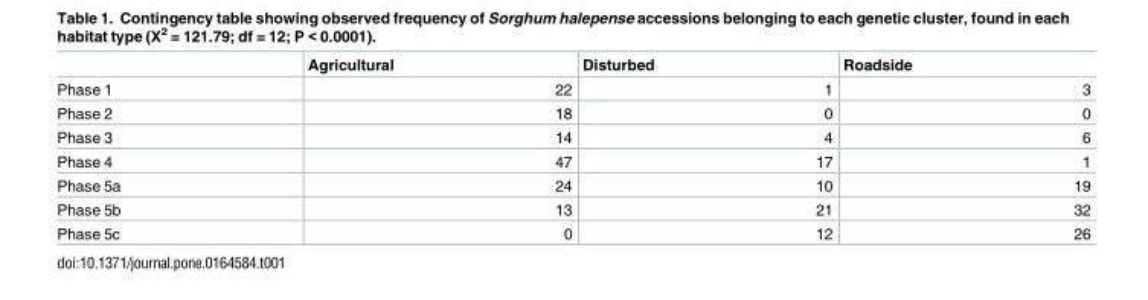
<table><thead><tr><td></td><td>Agricultural</td><td>Disturbed</td><td>Roadside</td></tr></thead><tbody><tr><td>Phase 1</td><td>22</td><td>1</td><td>3</td></tr><tr><td>Phase 2</td><td>18</td><td>0</td><td>0</td></tr><tr><td>Phase 3</td><td>14</td><td>4</td><td>6</td></tr><tr><td>Phase 4</td><td>47</td><td>17</td><td>1</td></tr><tr><td>Phase 5a</td><td>24</td><td>10</td><td>19</td></tr><tr><td>Phase 5b</td><td>13</td><td>21</td><td>32</td></tr><tr><td>Phase 5c</td><td>0</td><td>12</td><td>26</td></tr></tbody></table>